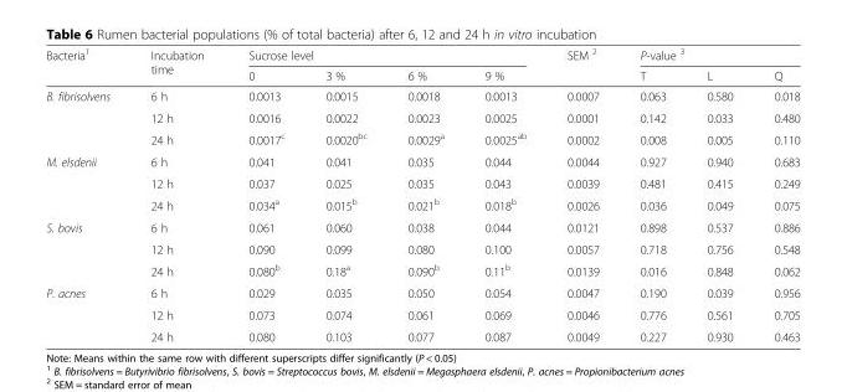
<table><thead><tr><td rowspan="2">Bacteria<sup>1</sup></td><td rowspan="2">Incubation time</td><td colspan="4">Sucrose level</td><td rowspan="2">SEM <sup>2</sup></td><td colspan="3">P-value <sup>3</sup></td></tr><tr><td>0</td><td>3 %</td><td>6 %</td><td>9 %</td><td>T</td><td>L</td><td>Q</td></tr></thead><tbody><tr><td rowspan="3">B. fibrisolvens</td><td>6 h</td><td>0.0013</td><td>0.0015</td><td>0.0018</td><td>0.0013</td><td>0.0007</td><td>0.063</td><td>0.580</td><td>0.018</td></tr><tr><td>12 h</td><td>0.0016</td><td>0.0022</td><td>0.0023</td><td>0.0025</td><td>0.0001</td><td>0.142</td><td>0.033</td><td>0.480</td></tr><tr><td>24 h</td><td>0.0017<sup>c</sup></td><td>0.0020<sup>bc</sup></td><td>0.0029<sup>a</sup></td><td>0.0025<sup>ab</sup></td><td>0.0002</td><td>0.008</td><td>0.005</td><td>0.110</td></tr><tr><td rowspan="3">M. elsdenii</td><td>6 h</td><td>0.041</td><td>0.041</td><td>0.035</td><td>0.044</td><td>0.0044</td><td>0.927</td><td>0.940</td><td>0.683</td></tr><tr><td>12 h</td><td>0.037</td><td>0.025</td><td>0.035</td><td>0.043</td><td>0.0039</td><td>0.481</td><td>0.415</td><td>0.249</td></tr><tr><td>24 h</td><td>0.034<sup>a</sup></td><td>0.015<sup>b</sup></td><td>0.021<sup>b</sup></td><td>0.018<sup>b</sup></td><td>0.0026</td><td>0.036</td><td>0.049</td><td>0.075</td></tr><tr><td rowspan="3">S. bovis</td><td>6 h</td><td>0.061</td><td>0.060</td><td>0.038</td><td>0.044</td><td>0.0121</td><td>0.898</td><td>0.537</td><td>0.886</td></tr><tr><td>12 h</td><td>0.090</td><td>0.099</td><td>0.080</td><td>0.100</td><td>0.0057</td><td>0.718</td><td>0.756</td><td>0.548</td></tr><tr><td>24 h</td><td>0.080<sup>b</sup></td><td>0.18<sup>a</sup></td><td>0.090<sup>b</sup></td><td>0.11<sup>b</sup></td><td>0.0139</td><td>0.016</td><td>0.848</td><td>0.062</td></tr><tr><td rowspan="3">P. acnes</td><td>6 h</td><td>0.029</td><td>0.035</td><td>0.050</td><td>0.054</td><td>0.0047</td><td>0.190</td><td>0.039</td><td>0.956</td></tr><tr><td>12 h</td><td>0.073</td><td>0.074</td><td>0.061</td><td>0.069</td><td>0.0046</td><td>0.776</td><td>0.561</td><td>0.705</td></tr><tr><td>24 h</td><td>0.080</td><td>0.103</td><td>0.077</td><td>0.087</td><td>0.0049</td><td>0.227</td><td>0.930</td><td>0.463</td></tr></tbody></table>